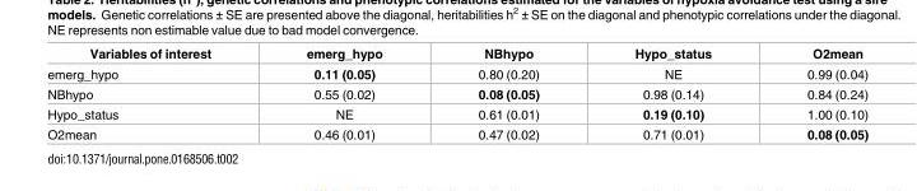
<table><thead><tr><td>Variables of interest</td><td>emerg_hypo</td><td>NBhypo</td><td>Hypo_status</td><td>O2mean</td></tr></thead><tbody><tr><td>emerg_hypo</td><td>0.11 (0.05)</td><td>0.80 (0.20)</td><td>NE</td><td>0.99 (0.04)</td></tr><tr><td>NBhypo</td><td>0.55 (0.02)</td><td>0.08 (0.05)</td><td>0.98 (0.14)</td><td>0.84 (0.24)</td></tr><tr><td>Hypo_status</td><td>NE</td><td>0.61 (0.01)</td><td>0.19 (0.10)</td><td>1.00 (0.10)</td></tr><tr><td>O2mean</td><td>0.46 (0.01)</td><td>0.47 (0.02)</td><td>0.71 (0.01)</td><td>0.08 (0.05)</td></tr></tbody></table>